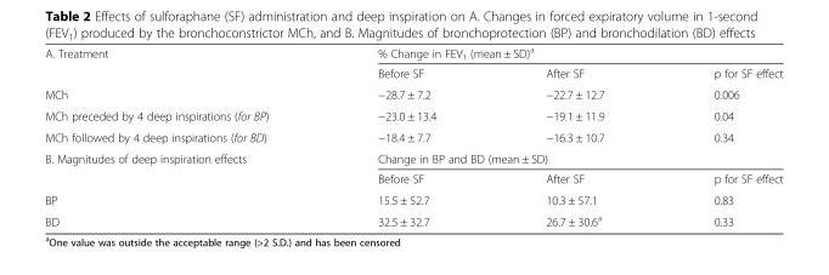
<table><tbody><tr><td rowspan="2">A. Treatment</td><td colspan="3">% Change in FEV<sub>1</sub> (mean ± SD)<sup>a</sup></td></tr><tr><td>Before SF</td><td>After SF</td><td>p for SF effect</td></tr><tr><td>MCh</td><td>−28.7 ± 7.2</td><td>−22.7 ± 12.7</td><td>0.006</td></tr><tr><td>MCh preceded by 4 deep inspirations (for BP)</td><td>−23.0 ± 13.4</td><td>−19.1 ± 11.9</td><td>0.04</td></tr><tr><td>MCh followed by 4 deep inspirations (for BD)</td><td>−18.4 ± 7.7</td><td>−16.3 ± 10.7</td><td>0.34</td></tr><tr><td rowspan="2">B. Magnitudes of deep inspiration effects</td><td colspan="3">Change in BP and BD (mean ± SD)</td></tr><tr><td>Before SF</td><td>After SF</td><td>p for SF effect</td></tr><tr><td>BP</td><td>15.5 ± 52.7</td><td>10.3 ± 57.1</td><td>0.83</td></tr><tr><td>BD</td><td>32.5 ± 32.7</td><td>26.7 ± 30.6<sup>a</sup></td><td>0.33</td></tr></tbody></table>